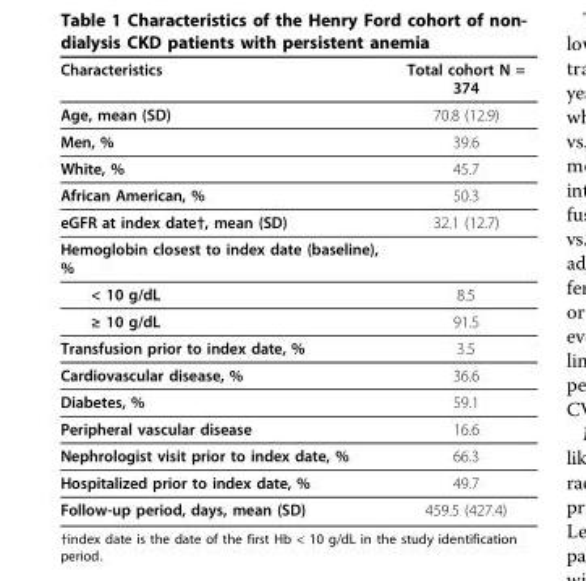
<table><thead><tr><td>Characteristics</td><td>Total cohort N = 374</td></tr></thead><tbody><tr><td>Age, mean (SD)</td><td>70.8 (12.9)</td></tr><tr><td>Men, %</td><td>39.6</td></tr><tr><td>White, %</td><td>45.7</td></tr><tr><td>African American, %</td><td>50.3</td></tr><tr><td>eGFR at index date†, mean (SD)</td><td>32.1 (12.7)</td></tr><tr><td colspan="2">Hemoglobin closest to index date (baseline), %</td></tr><tr><td>&lt; 10 g/dL</td><td>8.5</td></tr><tr><td>≥ 10 g/dL</td><td>91.5</td></tr><tr><td>Transfusion prior to index date, %</td><td>3.5</td></tr><tr><td>Cardiovascular disease, %</td><td>36.6</td></tr><tr><td>Diabetes, %</td><td>59.1</td></tr><tr><td>Peripheral vascular disease</td><td>16.6</td></tr><tr><td>Nephrologist visit prior to index date, %</td><td>66.3</td></tr><tr><td>Hospitalized prior to index date, %</td><td>49.7</td></tr><tr><td>Follow-up period, days, mean (SD)</td><td>459.5 (427.4)</td></tr></tbody></table>